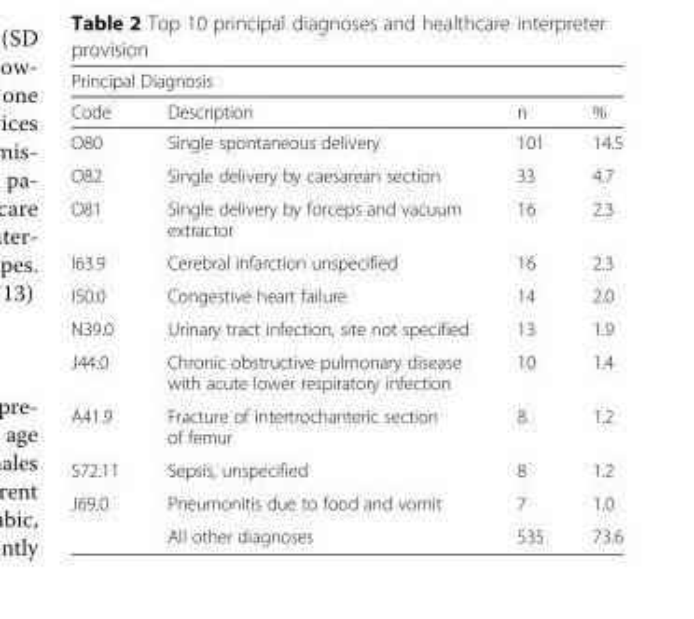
<table><thead><tr><td colspan="4">Principal Diagnosis</td></tr><tr><td>Code</td><td>Description</td><td>n</td><td>%</td></tr></thead><tbody><tr><td>O80</td><td>Single spontaneous delivery</td><td>101</td><td>14.5</td></tr><tr><td>O82</td><td>Single delivery by caesarean section</td><td>33</td><td>4.7</td></tr><tr><td>O81</td><td>Single delivery by forceps and vacuum extractor</td><td>16</td><td>2.3</td></tr><tr><td>I63.9</td><td>Cerebral infarction unspecified</td><td>16</td><td>2.3</td></tr><tr><td>I50.0</td><td>Congestive heart failure</td><td>14</td><td>2.0</td></tr><tr><td>N39.0</td><td>Urinary tract infection, site not specified</td><td>13</td><td>1.9</td></tr><tr><td>J44.0</td><td>Chronic obstructive pulmonary disease with acute lower respiratory infection</td><td>10</td><td>1.4</td></tr><tr><td>A41.9</td><td>Fracture of intertrochanteric section of femur</td><td>8</td><td>1.2</td></tr><tr><td>S72.11</td><td>Sepsis, unspecified</td><td>8</td><td>1.2</td></tr><tr><td rowspan="2">J69.0</td><td>Pneumonitis due to food and vomit</td><td>7</td><td>1.0</td></tr><tr><td>All other diagnoses</td><td>535</td><td>73.6</td></tr></tbody></table>